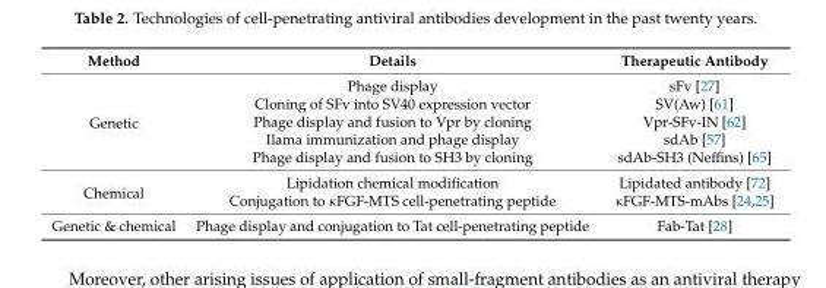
<table><thead><tr><td>Method</td><td>Details</td><td>Therapeutic Antibody</td></tr></thead><tbody><tr><td rowspan="5">Genetic</td><td>Phage display</td><td>sFv [27]</td></tr><tr><td>Cloning of SFv into SV40 expression vector</td><td>SV(Aw) [61]</td></tr><tr><td>Phage display and fusion to Vpr by cloning</td><td>Vpr-SFv-IN [62]</td></tr><tr><td>Ilama immunization and phage display</td><td>sdAb [57]</td></tr><tr><td>Phage display and fusion to SH3 by cloning</td><td>sdAb-SH3 (Neffins) [65]</td></tr><tr><td rowspan="2">Chemical</td><td>Lipidation chemical modification</td><td>Lipidated antibody [72]</td></tr><tr><td>Conjugation to κFGF-MTS cell-penetrating peptide</td><td>κFGF-MTS-mAbs [24,25]</td></tr><tr><td>Genetic &amp; chemical</td><td>Phage display and conjugation to Tat cell-penetrating peptide</td><td>Fab-Tat [28]</td></tr></tbody></table>